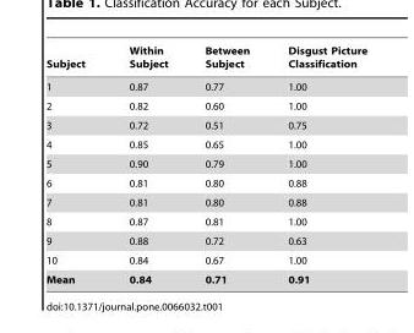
<table><thead><tr><td>Subject</td><td>Within Subject</td><td>Between Subject</td><td>Disgust Picture Classification</td></tr></thead><tbody><tr><td>1</td><td>0.87</td><td>0.77</td><td>1.00</td></tr><tr><td>2</td><td>0.82</td><td>0.60</td><td>1.00</td></tr><tr><td>3</td><td>0.72</td><td>0.51</td><td>0.75</td></tr><tr><td>4</td><td>0.85</td><td>0.65</td><td>1.00</td></tr><tr><td>5</td><td>0.90</td><td>0.79</td><td>1.00</td></tr><tr><td>6</td><td>0.81</td><td>0.80</td><td>0.88</td></tr><tr><td>7</td><td>0.81</td><td>0.80</td><td>0.88</td></tr><tr><td>8</td><td>0.87</td><td>0.81</td><td>1.00</td></tr><tr><td>9</td><td>0.88</td><td>0.72</td><td>0.63</td></tr><tr><td>10</td><td>0.84</td><td>0.67</td><td>1.00</td></tr><tr><td>Mean</td><td>0.84</td><td>0.71</td><td>0.91</td></tr></tbody></table>